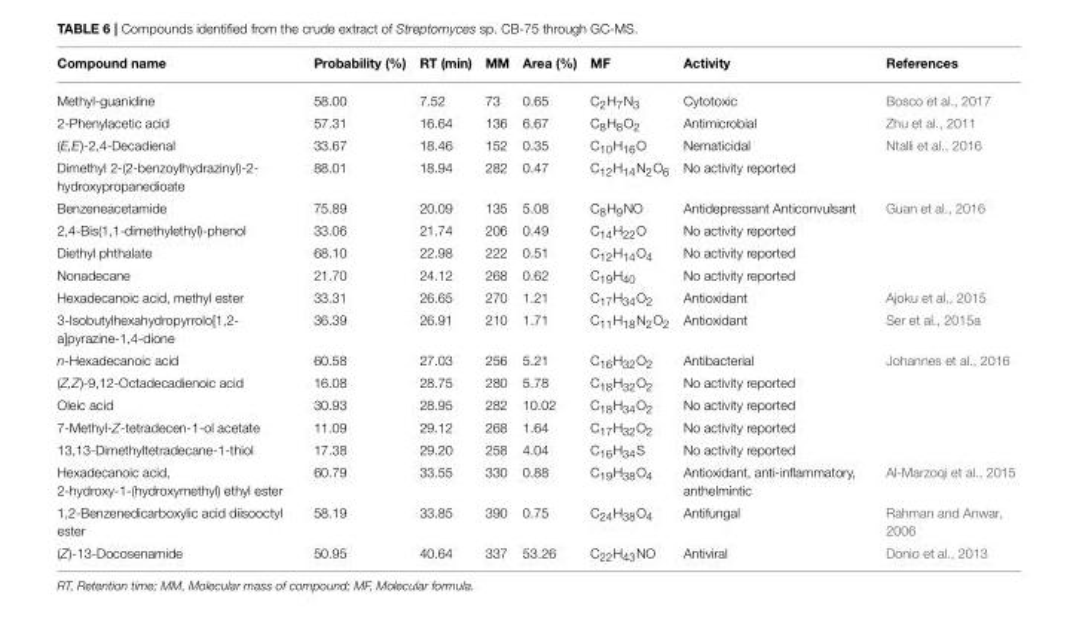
<table><thead><tr><td>Compound name</td><td>Probability (%)</td><td>RT (min)</td><td>MM</td><td>Area (%)</td><td>MF</td><td>Activity</td><td>References</td></tr></thead><tbody><tr><td>Methyl-guanidine</td><td>58.00</td><td>7.52</td><td>73</td><td>0.65</td><td>C<sub>2</sub>H<sub>7</sub>N<sub>3</sub></td><td>Cytotoxic</td><td>Bosco et al., 2017</td></tr><tr><td>2-Phenylacetic acid</td><td>57.31</td><td>16.64</td><td>136</td><td>6.67</td><td>C<sub>8</sub>H<sub>8</sub>O<sub>2</sub></td><td>Antimicrobial</td><td>Zhu et al., 2011</td></tr><tr><td>(E,E)-2,4-Decadienal</td><td>33.67</td><td>18.46</td><td>152</td><td>0.35</td><td>C<sub>10</sub>H<sub>16</sub>O</td><td>Nematicidal</td><td>Ntalli et al., 2016</td></tr><tr><td>Dimethyl 2-(2-benzoylhydrazinyl)-2- hydroxypropanedioate</td><td>88.01</td><td>18.94</td><td>282</td><td>0.47</td><td>C<sub>12</sub>H<sub>14</sub>N<sub>2</sub>O<sub>6</sub></td><td>No activity reported</td><td></td></tr><tr><td>Benzeneacetamide</td><td>75.89</td><td>20.09</td><td>135</td><td>5.08</td><td>C<sub>8</sub>H<sub>9</sub>NO</td><td>Antidepressant Anticonvulsant</td><td>Guan et al., 2016</td></tr><tr><td>2,4-Bis(1,1-dimethylethyl)-phenol</td><td>33.06</td><td>21.74</td><td>206</td><td>0.49</td><td>C<sub>14</sub>H<sub>22</sub>O</td><td>No activity reported</td><td></td></tr><tr><td>Diethyl phthalate</td><td>68.10</td><td>22.98</td><td>222</td><td>0.51</td><td>C<sub>12</sub>H<sub>14</sub>O<sub>4</sub></td><td>No activity reported</td><td></td></tr><tr><td>Nonadecane</td><td>21.70</td><td>24.12</td><td>268</td><td>0.62</td><td>C<sub>19</sub>H<sub>40</sub></td><td>No activity reported</td><td></td></tr><tr><td>Hexadecanoic acid, methyl ester</td><td>33.31</td><td>26.65</td><td>270</td><td>1.21</td><td>C<sub>17</sub>H<sub>34</sub>O<sub>2</sub></td><td>Antioxidant</td><td>Ajoku et al., 2015</td></tr><tr><td>3-Isobutylhexahydropyrrolo[1,2- a]pyrazine-1,4-dione</td><td>36.39</td><td>26.91</td><td>210</td><td>1.71</td><td>C<sub>11</sub>H<sub>18</sub>N<sub>2</sub>O<sub>2</sub></td><td>Antioxidant</td><td>Ser et al., 2015a</td></tr><tr><td>n-Hexadecanoic acid</td><td>60.58</td><td>27.03</td><td>256</td><td>5.21</td><td>C<sub>16</sub>H<sub>32</sub>O<sub>2</sub></td><td>Antibacterial</td><td>Johannes et al., 2016</td></tr><tr><td>(Z,Z)-9,12-Octadecadienoic acid</td><td>16.08</td><td>28.75</td><td>280</td><td>5.78</td><td>C<sub>18</sub>H<sub>32</sub>O<sub>2</sub></td><td>No activity reported</td><td></td></tr><tr><td>Oleic acid</td><td>30.93</td><td>28.95</td><td>282</td><td>10.02</td><td>C<sub>18</sub>H<sub>34</sub>O<sub>2</sub></td><td>No activity reported</td><td></td></tr><tr><td>7-Methyl-Z-tetradecen-1-ol acetate</td><td>11.09</td><td>29.12</td><td>268</td><td>1.64</td><td>C<sub>17</sub>H<sub>32</sub>O<sub>2</sub></td><td>No activity reported</td><td></td></tr><tr><td>13,13-Dimethyltetradecane-1-thiol</td><td>17.38</td><td>29.20</td><td>258</td><td>4.04</td><td>C<sub>16</sub>H<sub>34</sub>S</td><td>No activity reported</td><td></td></tr><tr><td>Hexadecanoic acid, 2-hydroxy-1-(hydroxymethyl) ethyl ester</td><td>60.79</td><td>33.55</td><td>330</td><td>0.88</td><td>C<sub>19</sub>H<sub>38</sub>O<sub>4</sub></td><td>Antioxidant, anti-inflammatory, anthelmintic</td><td>Al-Marzoqi et al., 2015</td></tr><tr><td>1,2-Benzenedicarboxylic acid diisooctyl ester</td><td>58.19</td><td>33.85</td><td>390</td><td>0.75</td><td>C<sub>24</sub>H<sub>38</sub>O<sub>4</sub></td><td>Antifungal</td><td>Rahman and Anwar, 2006</td></tr><tr><td>(Z)-13-Docosenamide</td><td>50.95</td><td>40.64</td><td>337</td><td>53.26</td><td>C<sub>22</sub>H<sub>43</sub>NO</td><td>Antiviral</td><td>Donio et al., 2013</td></tr></tbody></table>